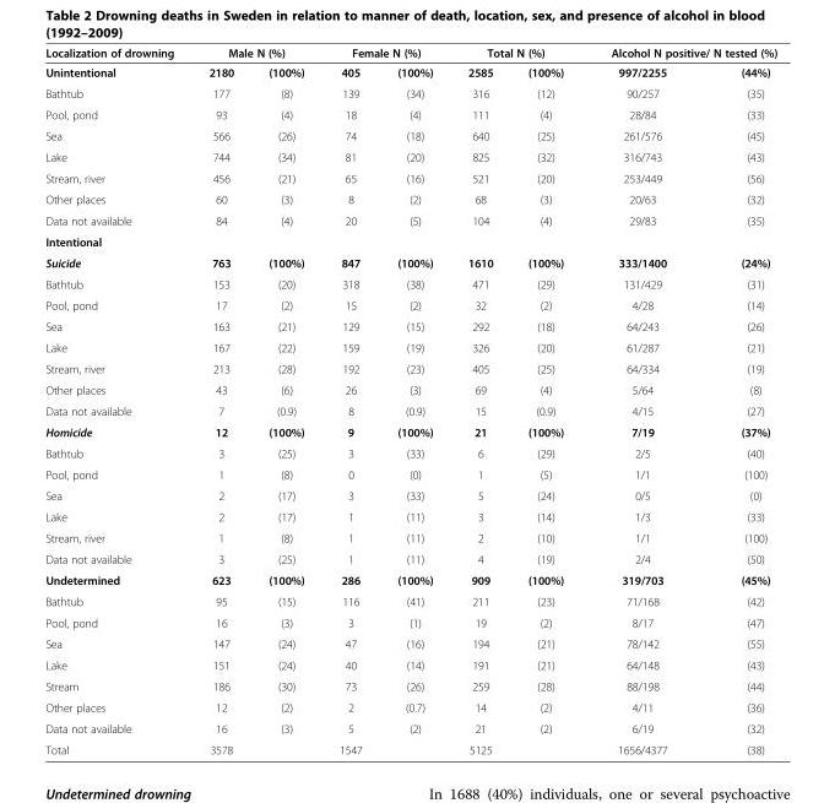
<table><thead><tr><td rowspan="2">Localization of drowning Unintentional</td><td colspan="2">Male N (%)</td><td colspan="2">Female N (%)</td><td colspan="2">Total N (%)</td><td colspan="2">Alcohol N positive/ N tested (%)</td></tr><tr><td>2180</td><td>(100%)</td><td>405</td><td>(100%)</td><td>2585</td><td>(100%)</td><td>997/2255</td><td>(44%)</td></tr></thead><tbody><tr><td>Bathtub</td><td>177</td><td>(8)</td><td>139</td><td>(34)</td><td>316</td><td>(12)</td><td>90/257</td><td>(35)</td></tr><tr><td>Pool, pond</td><td>93</td><td>(4)</td><td>18</td><td>(4)</td><td>111</td><td>(4)</td><td>28/84</td><td>(33)</td></tr><tr><td>Sea</td><td>566</td><td>(26)</td><td>74</td><td>(18)</td><td>640</td><td>(25)</td><td>261/576</td><td>(45)</td></tr><tr><td>Lake</td><td>744</td><td>(34)</td><td>81</td><td>(20)</td><td>825</td><td>(32)</td><td>316/743</td><td>(43)</td></tr><tr><td>Stream, river</td><td>456</td><td>(21)</td><td>65</td><td>(16)</td><td>521</td><td>(20)</td><td>253/449</td><td>(56)</td></tr><tr><td>Other places</td><td>60</td><td>(3)</td><td>8</td><td>(2)</td><td>68</td><td>(3)</td><td>20/63</td><td>(32)</td></tr><tr><td>Data not available</td><td>84</td><td>(4)</td><td>20</td><td>(5)</td><td>104</td><td>(4)</td><td>29/83</td><td>(35)</td></tr><tr><td colspan="9">Intentional</td></tr><tr><td>Suicide</td><td>763</td><td>(100%)</td><td>847</td><td>(100%)</td><td>1610</td><td>(100%)</td><td>333/1400</td><td>(24%)</td></tr><tr><td>Bathtub</td><td>153</td><td>(20)</td><td>318</td><td>(38)</td><td>471</td><td>(29)</td><td>131/429</td><td>(31)</td></tr><tr><td>Pool, pond</td><td>17</td><td>(2)</td><td>15</td><td>(2)</td><td>32</td><td>(2)</td><td>4/28</td><td>(14)</td></tr><tr><td>Sea</td><td>163</td><td>(21)</td><td>129</td><td>(15)</td><td>292</td><td>(18)</td><td>64/243</td><td>(26)</td></tr><tr><td>Lake</td><td>167</td><td>(22)</td><td>159</td><td>(19)</td><td>326</td><td>(20)</td><td>61/287</td><td>(21)</td></tr><tr><td>Stream, river</td><td>213</td><td>(28)</td><td>192</td><td>(23)</td><td>405</td><td>(25)</td><td>64/334</td><td>(19)</td></tr><tr><td>Other places</td><td>43</td><td>(6)</td><td>26</td><td>(3)</td><td>69</td><td>(4)</td><td>5/64</td><td>(8)</td></tr><tr><td>Data not available</td><td>7</td><td>(0.9)</td><td>8</td><td>(0.9)</td><td>15</td><td>(0.9)</td><td>4/15</td><td>(27)</td></tr><tr><td>Homicide</td><td>12</td><td>(100%)</td><td>9</td><td>(100%)</td><td>21</td><td>(100%)</td><td>7/19</td><td>(37%)</td></tr><tr><td>Bathtub</td><td>3</td><td>(25)</td><td>3</td><td>(33)</td><td>6</td><td>(29)</td><td>2/5</td><td>(40)</td></tr><tr><td>Pool, pond</td><td>1</td><td>(8)</td><td>0</td><td>(0)</td><td>1</td><td>(5)</td><td>1/1</td><td>(100)</td></tr><tr><td>Sea</td><td>2</td><td>(17)</td><td>3</td><td>(33)</td><td>5</td><td>(24)</td><td>0/5</td><td>(0)</td></tr><tr><td>Lake</td><td>2</td><td>(17)</td><td>1</td><td>(11)</td><td>3</td><td>(14)</td><td>1/3</td><td>(33)</td></tr><tr><td>Stream, river</td><td>1</td><td>(8)</td><td>1</td><td>(11)</td><td>2</td><td>(10)</td><td>1/1</td><td>(100)</td></tr><tr><td>Data not available</td><td>3</td><td>(25)</td><td>1</td><td>(11)</td><td>4</td><td>(19)</td><td>2/4</td><td>(50)</td></tr><tr><td>Undetermined</td><td>623</td><td>(100%)</td><td>286</td><td>(100%)</td><td>909</td><td>(100%)</td><td>319/703</td><td>(45%)</td></tr><tr><td>Bathtub</td><td>95</td><td>(15)</td><td>116</td><td>(41)</td><td>211</td><td>(23)</td><td>71/168</td><td>(42)</td></tr><tr><td>Pool, pond</td><td>16</td><td>(3)</td><td>3</td><td>(1)</td><td>19</td><td>(2)</td><td>8/17</td><td>(47)</td></tr><tr><td>Sea</td><td>147</td><td>(24)</td><td>47</td><td>(16)</td><td>194</td><td>(21)</td><td>78/142</td><td>(55)</td></tr><tr><td>Lake</td><td>151</td><td>(24)</td><td>40</td><td>(14)</td><td>191</td><td>(21)</td><td>64/148</td><td>(43)</td></tr><tr><td>Stream</td><td>186</td><td>(30)</td><td>73</td><td>(26)</td><td>259</td><td>(28)</td><td>88/198</td><td>(44)</td></tr><tr><td>Other places</td><td>12</td><td>(2)</td><td>2</td><td>(0.7)</td><td>14</td><td>(2)</td><td>4/11</td><td>(36)</td></tr><tr><td>Data not available</td><td>16</td><td>(3)</td><td>5</td><td>(2)</td><td>21</td><td>(2)</td><td>6/19</td><td>(32)</td></tr><tr><td>Total</td><td>3578</td><td></td><td>1547</td><td></td><td>5125</td><td></td><td>1656/4377</td><td>(38)</td></tr></tbody></table>